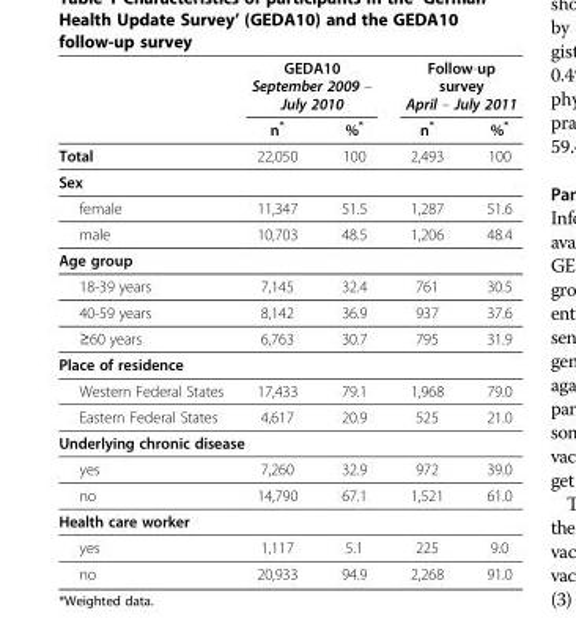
<table><thead><tr><td rowspan="2"></td><td colspan="2">GEDA10 September 2009 – July 2010</td><td colspan="2">Follow-up survey April – July 2011</td></tr><tr><td>n*</td><td>%*</td><td>n*</td><td>%*</td></tr></thead><tbody><tr><td>Total</td><td>22,050</td><td>100</td><td>2,493</td><td>100</td></tr><tr><td colspan="5">Sex</td></tr><tr><td>female</td><td>11,347</td><td>51.5</td><td>1,287</td><td>51.6</td></tr><tr><td>male</td><td>10,703</td><td>48.5</td><td>1,206</td><td>48.4</td></tr><tr><td colspan="5">Age group</td></tr><tr><td>18-39 years</td><td>7,145</td><td>32.4</td><td>761</td><td>30.5</td></tr><tr><td>40-59 years</td><td>8,142</td><td>36.9</td><td>937</td><td>37.6</td></tr><tr><td>≥60 years</td><td>6,763</td><td>30.7</td><td>795</td><td>31.9</td></tr><tr><td colspan="5">Place of residence</td></tr><tr><td>Western Federal States</td><td>17,433</td><td>79.1</td><td>1,968</td><td>79.0</td></tr><tr><td>Eastern Federal States</td><td>4,617</td><td>20.9</td><td>525</td><td>21.0</td></tr><tr><td colspan="5">Underlying chronic disease</td></tr><tr><td>yes</td><td>7,260</td><td>32.9</td><td>972</td><td>39.0</td></tr><tr><td>no</td><td>14,790</td><td>67.1</td><td>1,521</td><td>61.0</td></tr><tr><td colspan="5">Health care worker</td></tr><tr><td>yes</td><td>1,117</td><td>5.1</td><td>225</td><td>9.0</td></tr><tr><td>no</td><td>20,933</td><td>94.9</td><td>2,268</td><td>91.0</td></tr></tbody></table>